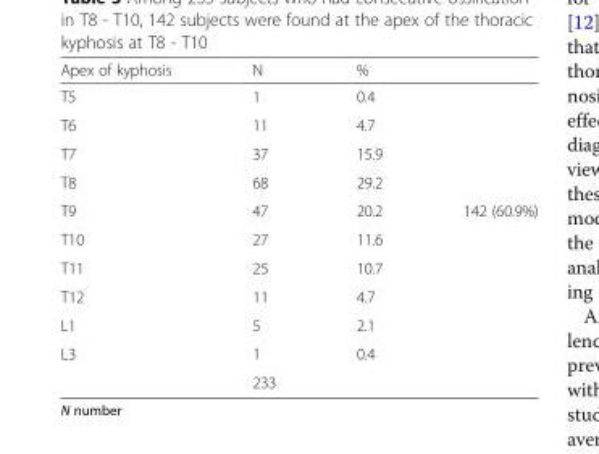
<table><thead><tr><td>Apex of kyphosis</td><td>N</td><td>%</td><td></td></tr></thead><tbody><tr><td>T5</td><td>1</td><td>0.4</td><td></td></tr><tr><td>T6</td><td>11</td><td>4.7</td><td></td></tr><tr><td>T7</td><td>37</td><td>15.9</td><td></td></tr><tr><td>T8</td><td>68</td><td>29.2</td><td></td></tr><tr><td>T9</td><td>47</td><td>20.2</td><td rowspan="2">142 (60.9%)</td></tr><tr><td>T10</td><td>27</td><td>11.6</td></tr><tr><td>T11</td><td>25</td><td>10.7</td><td></td></tr><tr><td>T12</td><td>11</td><td>4.7</td><td></td></tr><tr><td>L1</td><td>5</td><td>2.1</td><td></td></tr><tr><td rowspan="2">L3</td><td>1</td><td>0.4</td><td></td></tr><tr><td>233</td><td></td><td></td></tr></tbody></table>